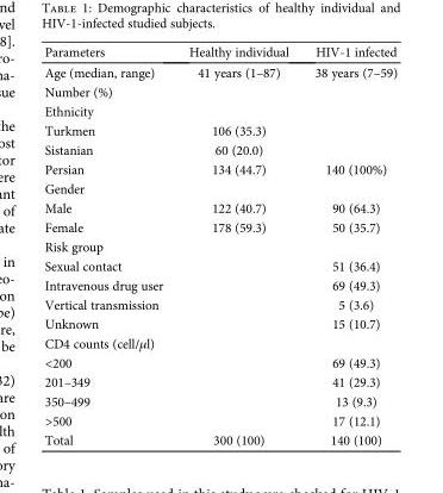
<table><thead><tr><td>Parameters</td><td>Healthy individual</td><td>HIV-1 infected</td></tr></thead><tbody><tr><td>Age (median, range)</td><td>41 years (1–87)</td><td>38 years (7–59)</td></tr><tr><td colspan="3">Number (%)</td></tr><tr><td colspan="3">Ethnicity</td></tr><tr><td>Turkmen</td><td>106 (35.3)</td><td></td></tr><tr><td>Sistanian</td><td>60 (20.0)</td><td></td></tr><tr><td>Persian</td><td>134 (44.7)</td><td>140 (100%)</td></tr><tr><td colspan="3">Gender</td></tr><tr><td>Male</td><td>122 (40.7)</td><td>90 (64.3)</td></tr><tr><td>Female</td><td>178 (59.3)</td><td>50 (35.7)</td></tr><tr><td colspan="3">Risk group</td></tr><tr><td>Sexual contact</td><td rowspan="4"></td><td>51 (36.4)</td></tr><tr><td>Intravenous drug user</td><td>69 (49.3)</td></tr><tr><td>Vertical transmission</td><td>5 (3.6)</td></tr><tr><td>Unknown</td><td>15 (10.7)</td></tr><tr><td colspan="3">CD4 counts (cell/μl)</td></tr><tr><td>&lt;200</td><td rowspan="4"></td><td>69 (49.3)</td></tr><tr><td>201–349</td><td>41 (29.3)</td></tr><tr><td>350–499</td><td>13 (9.3)</td></tr><tr><td>&gt;500</td><td>17 (12.1)</td></tr><tr><td>Total</td><td>300 (100)</td><td>140 (100)</td></tr></tbody></table>